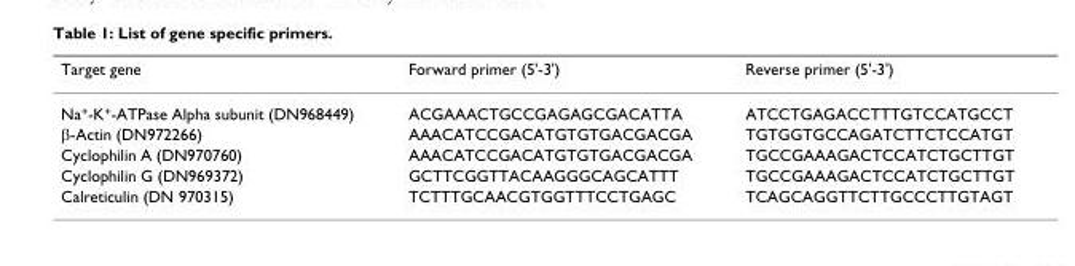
<table><thead><tr><td>Target gene</td><td>Forward primer (5&#x27;-3&#x27;)</td><td>Reverse primer (5&#x27;-3&#x27;)</td></tr></thead><tbody><tr><td>Na<sup>+</sup>-K<sup>+</sup>-ATPase Alpha subunit (DN968449)</td><td>ACGAAACTGCCGAGAGCGACATTA</td><td>ATCCTGAGACCTTTGTCCATGCCT</td></tr><tr><td>β-Actin (DN972266)</td><td>AAACATCCGACATGTGTGACGACGA</td><td>TGTGGTGCCAGATCTTCTCCATGT</td></tr><tr><td>Cyclophilin A (DN970760)</td><td>AAACATCCGACATGTGTGACGACGA</td><td>TGCCGAAAGACTCCATCTGCTTGT</td></tr><tr><td>Cyclophilin G (DN969372)</td><td>GCTTCGGTTACAAGGGCAGCATTT</td><td>TGCCGAAAGACTCCATCTGCTTGT</td></tr><tr><td>Calreticulin (DN 970315)</td><td>TCTTTGCAACGTGGTTTCCTGAGC</td><td>TCAGCAGGTTCTTGCCCTTGTAGT</td></tr></tbody></table>